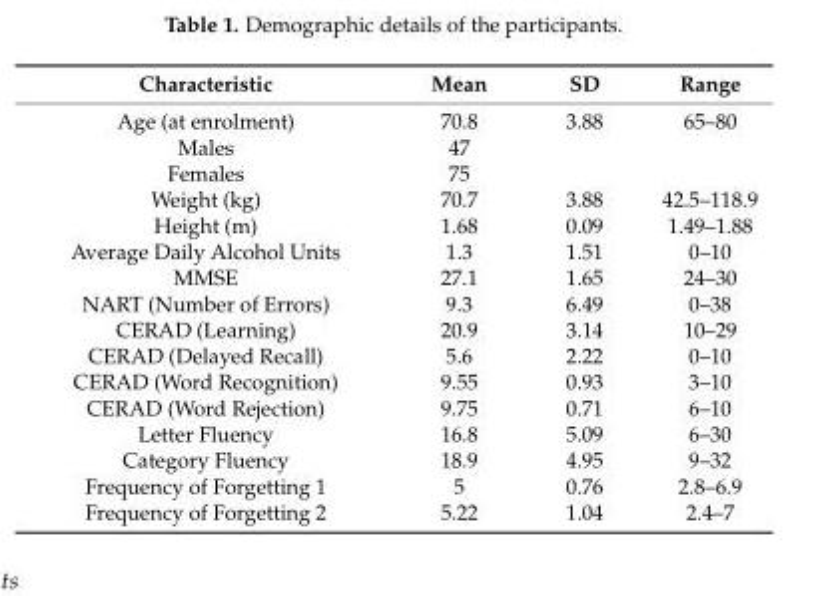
<table><thead><tr><td>Characteristic</td><td>Mean</td><td>SD</td><td>Range</td></tr></thead><tbody><tr><td>Age (at enrolment)</td><td>70.8</td><td>3.88</td><td>65–80</td></tr><tr><td>Males</td><td>47</td><td></td><td></td></tr><tr><td>Females</td><td>75</td><td></td><td></td></tr><tr><td>Weight (kg)</td><td>70.7</td><td>3.88</td><td>42.5–118.9</td></tr><tr><td>Height (m)</td><td>1.68</td><td>0.09</td><td>1.49–1.88</td></tr><tr><td>Average Daily Alcohol Units</td><td>1.3</td><td>1.51</td><td>0–10</td></tr><tr><td>MMSE</td><td>27.1</td><td>1.65</td><td>24–30</td></tr><tr><td>NART (Number of Errors)</td><td>9.3</td><td>6.49</td><td>0–38</td></tr><tr><td>CERAD (Learning)</td><td>20.9</td><td>3.14</td><td>10–29</td></tr><tr><td>CERAD (Delayed Recall)</td><td>5.6</td><td>2.22</td><td>0–10</td></tr><tr><td>CERAD (Word Recognition)</td><td>9.55</td><td>0.93</td><td>3–10</td></tr><tr><td>CERAD (Word Rejection)</td><td>9.75</td><td>0.71</td><td>6–10</td></tr><tr><td>Letter Fluency</td><td>16.8</td><td>5.09</td><td>6–30</td></tr><tr><td>Category Fluency</td><td>18.9</td><td>4.95</td><td>9–32</td></tr><tr><td>Frequency of Forgetting 1</td><td>5</td><td>0.76</td><td>2.8–6.9</td></tr><tr><td>Frequency of Forgetting 2</td><td>5.22</td><td>1.04</td><td>2.4–7</td></tr></tbody></table>